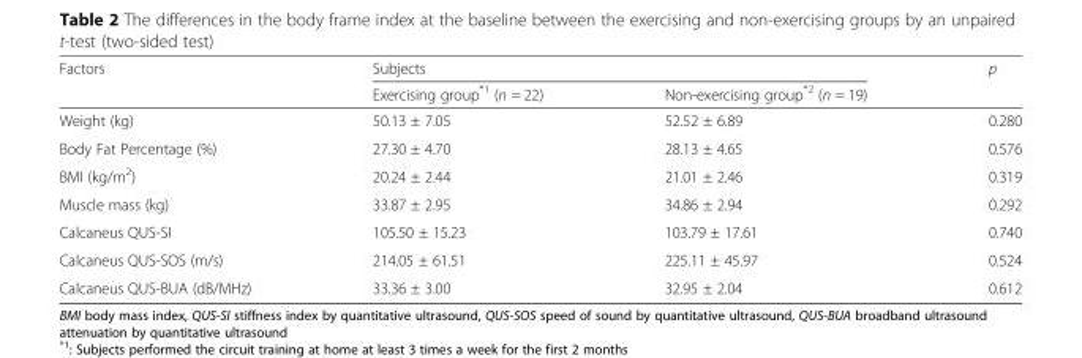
<table><thead><tr><td rowspan="2">Factors</td><td colspan="2">Subjects</td><td rowspan="2">p</td></tr><tr><td>Exercising group<sup>*1</sup> (n = 22)</td><td>Non-exercising group<sup>*2</sup> (n = 19)</td></tr></thead><tbody><tr><td>Weight (kg)</td><td>50.13 ± 7.05</td><td>52.52 ± 6.89</td><td>0.280</td></tr><tr><td>Body Fat Percentage (%)</td><td>27.30 ± 4.70</td><td>28.13 ± 4.65</td><td>0.576</td></tr><tr><td>BMI (kg/m<sup>2</sup>)</td><td>20.24 ± 2.44</td><td>21.01 ± 2.46</td><td>0.319</td></tr><tr><td>Muscle mass (kg)</td><td>33.87 ± 2.95</td><td>34.86 ± 2.94</td><td>0.292</td></tr><tr><td>Calcaneus QUS-SI</td><td>105.50 ± 15.23</td><td>103.79 ± 17.61</td><td>0.740</td></tr><tr><td>Calcaneus QUS-SOS (m/s)</td><td>214.05 ± 61.51</td><td>225.11 ± 45.97</td><td>0.524</td></tr><tr><td>Calcaneus QUS-BUA (dB/MHz)</td><td>33.36 ± 3.00</td><td>32.95 ± 2.04</td><td>0.612</td></tr></tbody></table>